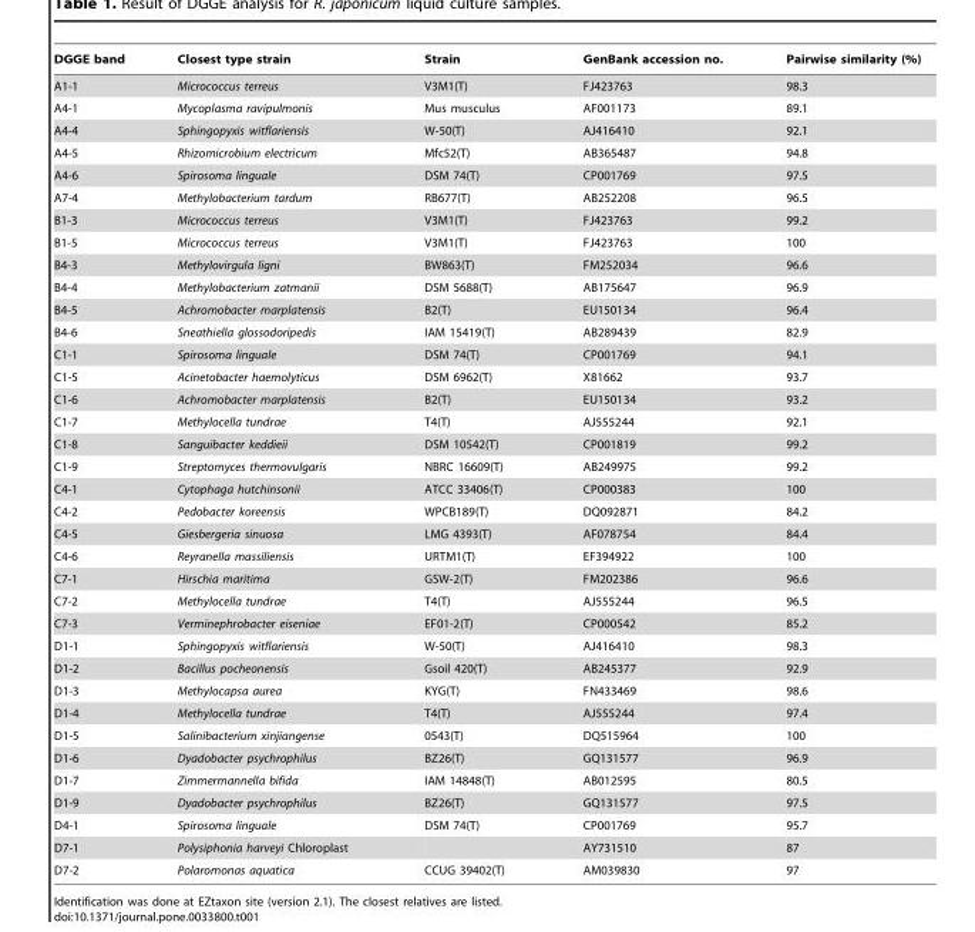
<table><thead><tr><td>DGGE band</td><td>Closest type strain</td><td>Strain</td><td>GenBank accession no.</td><td>Pairwise similarity (%)</td></tr></thead><tbody><tr><td>A1-1</td><td>Micrococcus terreus</td><td>V3M1(T)</td><td>FJ423763</td><td>98.3</td></tr><tr><td>A4-1</td><td>Mycoplasma ravipulmonis</td><td>Mus musculus</td><td>AF001173</td><td>89.1</td></tr><tr><td>A4-4</td><td>Sphingopyxis witflariensis</td><td>W-50(T)</td><td>AJ416410</td><td>92.1</td></tr><tr><td>A4-5</td><td>Rhizomicrobium electricum</td><td>Mfc52(T)</td><td>AB365487</td><td>94.8</td></tr><tr><td>A4-6</td><td>Spirosoma linguale</td><td>DSM 74(T)</td><td>CP001769</td><td>97.5</td></tr><tr><td>A7-4</td><td>Methylobacterium tardum</td><td>RB677(T)</td><td>AB252208</td><td>96.5</td></tr><tr><td>B1-3</td><td>Micrococcus terreus</td><td>V3M1(T)</td><td>FJ423763</td><td>99.2</td></tr><tr><td>B1-5</td><td>Micrococcus terreus</td><td>V3M1(T)</td><td>FJ423763</td><td>100</td></tr><tr><td>B4-3</td><td>Methylovirgula ligni</td><td>BW863(T)</td><td>FM252034</td><td>96.6</td></tr><tr><td>B4-4</td><td>Methylobacterium zatmanii</td><td>DSM 5688(T)</td><td>AB175647</td><td>96.9</td></tr><tr><td>B4-5</td><td>Achromobacter marplatensis</td><td>B2(T)</td><td>EU150134</td><td>96.4</td></tr><tr><td>B4-6</td><td>Sneathiella glossodoripedis</td><td>IAM 15419(T)</td><td>AB289439</td><td>82.9</td></tr><tr><td>C1-1</td><td>Spirosoma linguale</td><td>DSM 74(T)</td><td>CP001769</td><td>94.1</td></tr><tr><td>C1-5</td><td>Acinetobacter haemolyticus</td><td>DSM 6962(T)</td><td>X81662</td><td>93.7</td></tr><tr><td>C1-6</td><td>Achromobacter marplatensis</td><td>B2(T)</td><td>EU150134</td><td>93.2</td></tr><tr><td>C1-7</td><td>Methylocella tundrae</td><td>T4(T)</td><td>AJ555244</td><td>92.1</td></tr><tr><td>C1-8</td><td>Sanguibacter keddieii</td><td>DSM 10542(T)</td><td>CP001819</td><td>99.2</td></tr><tr><td>C1-9</td><td>Streptomyces thermovulgaris</td><td>NBRC 16609(T)</td><td>AB249975</td><td>99.2</td></tr><tr><td>C4-1</td><td>Cytophaga hutchinsonii</td><td>ATCC 33406(T)</td><td>CP000383</td><td>100</td></tr><tr><td>C4-2</td><td>Pedobacter koreensis</td><td>WPCB189(T)</td><td>DQ092871</td><td>84.2</td></tr><tr><td>C4-5</td><td>Giesbergeria sinuosa</td><td>LMG 4393(T)</td><td>AF078754</td><td>84.4</td></tr><tr><td>C4-6</td><td>Reyranella massiliensis</td><td>URTM1(T)</td><td>EF394922</td><td>100</td></tr><tr><td>C7-1</td><td>Hirschia maritima</td><td>GSW-2(T)</td><td>FM202386</td><td>96.6</td></tr><tr><td>C7-2</td><td>Methylocella tundrae</td><td>T4(T)</td><td>AJ555244</td><td>96.5</td></tr><tr><td>C7-3</td><td>Verminephrobacter eiseniae</td><td>EF01-2(T)</td><td>CP000542</td><td>85.2</td></tr><tr><td>D1-1</td><td>Sphingopyxis witflariensis</td><td>W-50(T)</td><td>AJ416410</td><td>98.3</td></tr><tr><td>D1-2</td><td>Bacillus pocheonensis</td><td>Gsoil 420(T)</td><td>AB245377</td><td>92.9</td></tr><tr><td>D1-3</td><td>Methylocapsa aurea</td><td>KYG(T)</td><td>FN433469</td><td>98.6</td></tr><tr><td>D1-4</td><td>Methylocella tundrae</td><td>T4(T)</td><td>AJ555244</td><td>97.4</td></tr><tr><td>D1-5</td><td>Salinibacterium xinjiangense</td><td>0543(T)</td><td>DQ515964</td><td>100</td></tr><tr><td>D1-6</td><td>Dyadobacter psychrophilus</td><td>BZ26(T)</td><td>GQ131577</td><td>96.9</td></tr><tr><td>D1-7</td><td>Zimmermannella bifida</td><td>IAM 14848(T)</td><td>AB012595</td><td>80.5</td></tr><tr><td>D1-9</td><td>Dyadobacter psychrophilus</td><td>BZ26(T)</td><td>GQ131577</td><td>97.5</td></tr><tr><td>D4-1</td><td>Spirosoma linguale</td><td>DSM 74(T)</td><td>CP001769</td><td>95.7</td></tr><tr><td>D7-1</td><td>Polysiphonia harveyi Chloroplast</td><td></td><td>AY731510</td><td>87</td></tr><tr><td>D7-2</td><td>Polaromonas aquatica</td><td>CCUG 39402(T)</td><td>AM039830</td><td>97</td></tr></tbody></table>